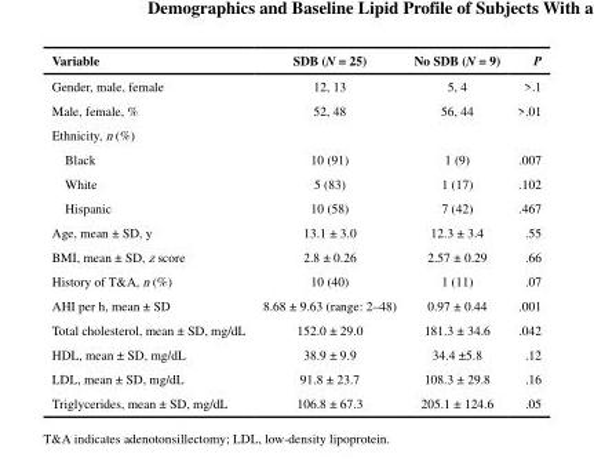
<table><thead><tr><td>Variable</td><td>SDB (N = 25)</td><td>No SDB (N = 9)</td><td>P</td></tr></thead><tbody><tr><td>Gender, male, female</td><td>12, 13</td><td>5, 4</td><td>&gt;.1</td></tr><tr><td>Male, female, %</td><td>52, 48</td><td>56, 44</td><td>&gt;.01</td></tr><tr><td colspan="4">Ethnicity, n (%)</td></tr><tr><td>Black</td><td>10 (91)</td><td>1 (9)</td><td>.007</td></tr><tr><td>White</td><td>5 (83)</td><td>1 (17)</td><td>.102</td></tr><tr><td>Hispanic</td><td>10 (58)</td><td>7 (42)</td><td>.467</td></tr><tr><td>Age, mean ± SD, y</td><td>13.1 ± 3.0</td><td>12.3 ± 3.4</td><td>.55</td></tr><tr><td>BMI, mean ± SD, z score</td><td>2.8 ± 0.26</td><td>2.57 ± 0.29</td><td>.66</td></tr><tr><td>History of T&amp;A, n (%)</td><td>10 (40)</td><td>1 (11)</td><td>.07</td></tr><tr><td>AHI per h, mean ± SD</td><td>8.68 ± 9.63 (range: 2–48)</td><td>0.97 ± 0.44</td><td>.001</td></tr><tr><td>Total cholesterol, mean ± SD, mg/dL</td><td>152.0 ± 29.0</td><td>181.3 ± 34.6</td><td>.042</td></tr><tr><td>HDL, mean ± SD, mg/dL</td><td>38.9 ± 9.9</td><td>34.4 ±5.8</td><td>.12</td></tr><tr><td>LDL, mean ± SD, mg/dL</td><td>91.8 ± 23.7</td><td>108.3 ± 29.8</td><td>.16</td></tr><tr><td>Triglycerides, mean ± SD, mg/dL</td><td>106.8 ± 67.3</td><td>205.1 ± 124.6</td><td>.05</td></tr></tbody></table>